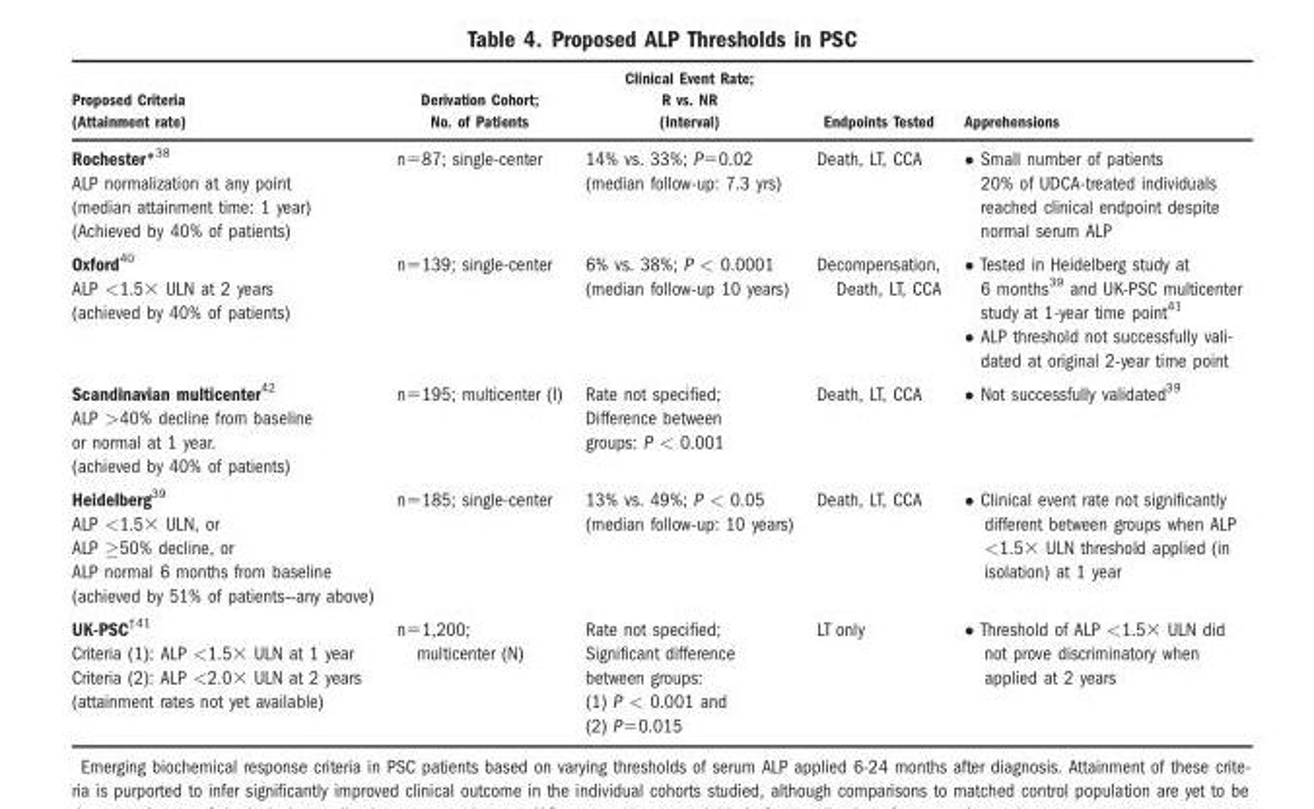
<table><thead><tr><td>Proposed Criteria (Attainment rate)</td><td>Derivation Cohort; No. of Patients</td><td>Clinical Event Rate; R vs. NR (Interval)</td><td>Endpoints Tested</td><td>Apprehensions</td></tr></thead><tbody><tr><td>Rochester*38 ALP normalization at any point (median attainment time: 1 year) (Achieved by 40% of patients)</td><td>n=87; single-center</td><td>14% vs. 33%; P=0.02 (median follow-up: 7.3 yrs)</td><td>Death, LT, CCA</td><td>• Small number of patients 20% of UDCA-treated individuals reached clinical endpoint despite normal serum ALP</td></tr><tr><td>Oxford40 ALP &lt;1.5× ULN at 2 years (achieved by 40% of patients)</td><td>n=139; single-center</td><td>6% vs. 38%; P &lt; 0.0001 (median follow-up 10 years)</td><td>Decompensation, Death, LT, CCA</td><td>� Tested in Heidelberg study at 6 months39 and UK-PSC multicenter study at 1-year time point41 � ALP threshold not successfully vali- dated at original 2-year time point</td></tr><tr><td>Scandinavian multicenter42 ALP &gt;40% decline from baseline or normal at 1 year. (achieved by 40% of patients)</td><td>n=195; multicenter (I)</td><td>Rate not specified; Difference between groups: P &lt; 0.001</td><td>Death, LT, CCA</td><td>• Not successfully validated<sup>39</sup></td></tr><tr><td>Heidelberg39 ALP &lt;1.5× ULN, or ALP ≥50% decline, or ALP normal 6 months from baseline (achieved by 51% of patients—any above)</td><td>n=185; single-center</td><td>13% vs. 49%; P &lt; 0.05 (median follow-up: 10 years)</td><td>Death, LT, CCA</td><td>• Clinical event rate not significantly different between groups when ALP &lt;1.5× ULN threshold applied (in isolation) at 1 year</td></tr><tr><td>UK-PSC†41 Criteria (1): ALP &lt;1.53 ULN at 1 year Criteria (2): ALP &lt;2.03 ULN at 2 years (attainment rates not yet available)</td><td>n=1,200; multicenter (N)</td><td>Rate not specified; Significant difference between groups: (1) P &lt; 0.001 and (2) P=0.015</td><td>LT only</td><td>• Threshold of ALP &lt;1.5× ULN did not prove discriminatory when applied at 2 years</td></tr></tbody></table>